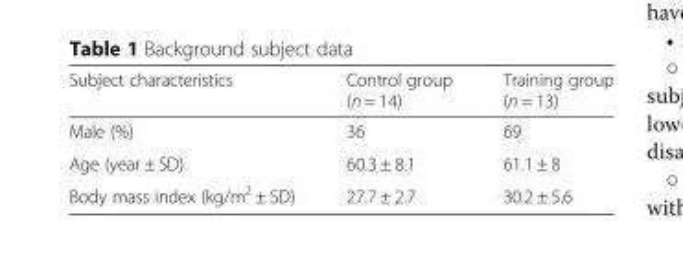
<table><thead><tr><td>Subject characteristics</td><td>Control group (n = 14)</td><td>Training group (n = 13)</td></tr></thead><tbody><tr><td>Male (%)</td><td>36</td><td>69</td></tr><tr><td>Age (year ± SD)</td><td>60.3 ± 8.1</td><td>61.1 ± 8</td></tr><tr><td>Body mass index (kg/m<sup>2</sup> ± SD)</td><td>27.7 ± 2.7</td><td>30.2 ± 5.6</td></tr></tbody></table>